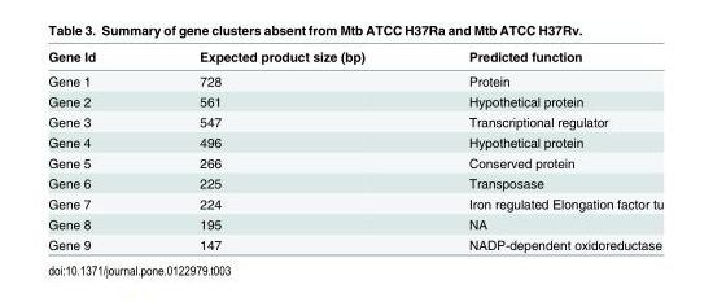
<table><thead><tr><td>Gene Id</td><td>Expected product size (bp)</td><td>Predicted function</td></tr></thead><tbody><tr><td>Gene 1</td><td>728</td><td>Protein</td></tr><tr><td>Gene 2</td><td>561</td><td>Hypothetical protein</td></tr><tr><td>Gene 3</td><td>547</td><td>Transcriptional regulator</td></tr><tr><td>Gene 4</td><td>496</td><td>Hypothetical protein</td></tr><tr><td>Gene 5</td><td>266</td><td>Conserved protein</td></tr><tr><td>Gene 6</td><td>225</td><td>Transposase</td></tr><tr><td>Gene 7</td><td>224</td><td>Iron regulated Elongation factor tu</td></tr><tr><td>Gene 8</td><td>195</td><td>NA</td></tr><tr><td>Gene 9</td><td>147</td><td>NADP-dependent oxidoreductase</td></tr></tbody></table>